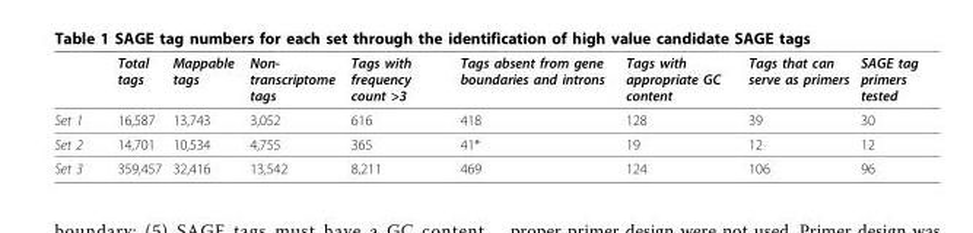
<table><thead><tr><td></td><td>Total tags</td><td>Mappable tags</td><td>Non- transcriptome tags</td><td>Tags with frequency count &gt;3</td><td>Tags absent from gene boundaries and introns</td><td>Tags with appropriate GC content</td><td>Tags that can serve as primers</td><td>SAGE tag primers tested</td></tr></thead><tbody><tr><td>Set 1</td><td>16,587</td><td>13,743</td><td>3,052</td><td>616</td><td>418</td><td>128</td><td>39</td><td>30</td></tr><tr><td>Set 2</td><td>14,701</td><td>10,534</td><td>4,755</td><td>365</td><td>41*</td><td>19</td><td>12</td><td>12</td></tr><tr><td>Set 3</td><td>359,457</td><td>32,416</td><td>13,542</td><td>8,211</td><td>469</td><td>124</td><td>106</td><td>96</td></tr></tbody></table>